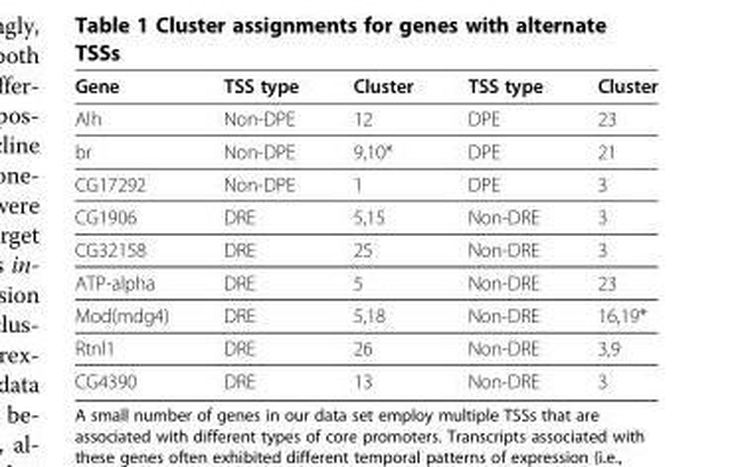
<table><thead><tr><td>Gene</td><td>TSS type</td><td>Cluster</td><td>TSS type</td><td>Cluster</td></tr></thead><tbody><tr><td>Alh</td><td>Non-DPE</td><td>12</td><td>DPE</td><td>23</td></tr><tr><td>br</td><td>Non-DPE</td><td>9,10*</td><td>DPE</td><td>21</td></tr><tr><td>CG17292</td><td>Non-DPE</td><td>1</td><td>DPE</td><td>3</td></tr><tr><td>CG1906</td><td>DRE</td><td>5,15</td><td>Non-DRE</td><td>3</td></tr><tr><td>CG32158</td><td>DRE</td><td>25</td><td>Non-DRE</td><td>3</td></tr><tr><td>ATP-alpha</td><td>DRE</td><td>5</td><td>Non-DRE</td><td>23</td></tr><tr><td>Mod(mdg4)</td><td>DRE</td><td>5,18</td><td>Non-DRE</td><td>16,19*</td></tr><tr><td>Rtnl1</td><td>DRE</td><td>26</td><td>Non-DRE</td><td>3,9</td></tr><tr><td>CG4390</td><td>DRE</td><td>13</td><td>Non-DRE</td><td>3</td></tr></tbody></table>